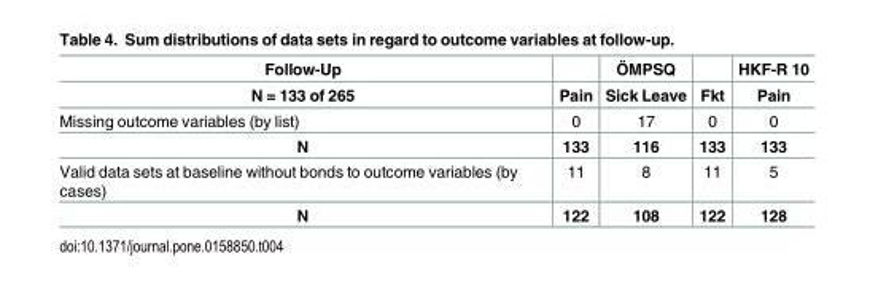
<table><thead><tr><td rowspan="2">Follow-Up N = 133 of 265</td><td rowspan="2">Pain</td><td rowspan="2">ÖMPSQ Sick Leave</td><td rowspan="2">Fkt</td><td rowspan="2">HKF-R 10 Pain</td></tr><tr></tr></thead><tbody><tr><td>Missing outcome variables (by list)</td><td>0</td><td>17</td><td>0</td><td>0</td></tr><tr><td>N</td><td>133</td><td>116</td><td>133</td><td>133</td></tr><tr><td>Valid data sets at baseline without bonds to outcome variables (by cases)</td><td>11</td><td>8</td><td>11</td><td>5</td></tr><tr><td>N</td><td>122</td><td>108</td><td>122</td><td>128</td></tr></tbody></table>